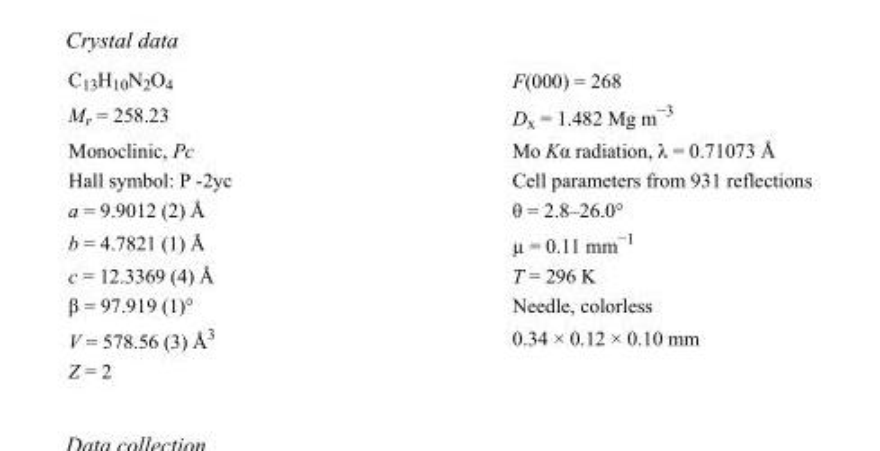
<table><tbody><tr><td>C<sub>13</sub>H<sub>10</sub>N<sub>2</sub>O<sub>4</sub></td><td>F(000) = 268</td></tr><tr><td>M<sub>r</sub> = 258.23</td><td>D<sub>x</sub> = 1.482 Mg m<sup>−3</sup></td></tr><tr><td>Monoclinic, Pc</td><td>Mo Kα radiation, λ = 0.71073 Å</td></tr><tr><td>Hall symbol: P -2yc</td><td>Cell parameters from 931 reflections</td></tr><tr><td>a = 9.9012 (2) Å</td><td>θ = 2.8–26.0°</td></tr><tr><td>b = 4.7821 (1) Å</td><td>µ = 0.11 mm<sup>−1</sup></td></tr><tr><td>c = 12.3369 (4) Å</td><td>T = 296 K</td></tr><tr><td>β = 97.919 (1)°</td><td>Needle, colorless</td></tr><tr><td>V = 578.56 (3) Å<sup>3</sup></td><td>0.34 × 0.12 × 0.10 mm</td></tr><tr><td>Z = 2</td><td></td></tr></tbody></table>